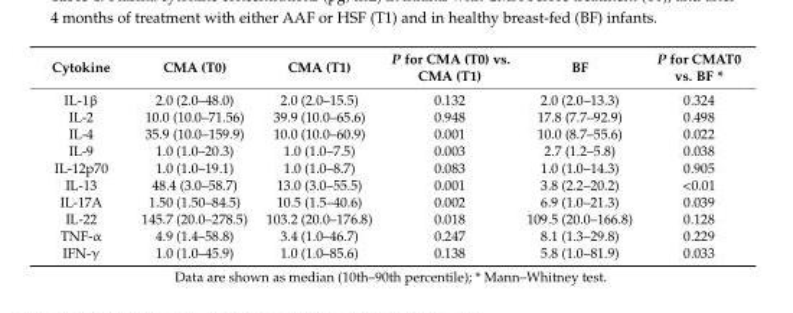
<table><thead><tr><td>Cytokine</td><td>CMA (T0)</td><td>CMA (T1)</td><td>P for CMA (T0) vs. CMA (T1)</td><td>BF</td><td>P for CMAT0 vs. BF *</td></tr></thead><tbody><tr><td>IL-1β</td><td>2.0 (2.0–48.0)</td><td>2.0 (2.0–15.5)</td><td>0.132</td><td>2.0 (2.0–13.3)</td><td>0.324</td></tr><tr><td>IL-2</td><td>10.0 (10.0–71.56)</td><td>39.9 (10.0–65.6)</td><td>0.948</td><td>17.8 (7.7–92.9)</td><td>0.498</td></tr><tr><td>IL-4</td><td>35.9 (10.0–159.9)</td><td>10.0 (10.0–60.9)</td><td>0.001</td><td>10.0 (8.7–55.6)</td><td>0.022</td></tr><tr><td>IL-9</td><td>1.0 (1.0–20.3)</td><td>1.0 (1.0–7.5)</td><td>0.003</td><td>2.7 (1.2–5.8)</td><td>0.038</td></tr><tr><td>IL-12p70</td><td>1.0 (1.0–19.1)</td><td>1.0 (1.0–8.7)</td><td>0.083</td><td>1.0 (1.0–14.3)</td><td>0.905</td></tr><tr><td>IL-13</td><td>48.4 (3.0–58.7)</td><td>13.0 (3.0–55.5)</td><td>0.001</td><td>3.8 (2.2–20.2)</td><td>&lt;0.01</td></tr><tr><td>IL-17A</td><td>1.50 (1.50–84.5)</td><td>10.5 (1.5–40.6)</td><td>0.002</td><td>6.9 (1.0–21.3)</td><td>0.039</td></tr><tr><td>IL-22</td><td>145.7 (20.0–278.5)</td><td>103.2 (20.0–176.8)</td><td>0.018</td><td>109.5 (20.0–166.8)</td><td>0.128</td></tr><tr><td>TNF-α</td><td>4.9 (1.4–58.8)</td><td>3.4 (1.0–46.7)</td><td>0.247</td><td>8.1 (1.3–29.8)</td><td>0.229</td></tr><tr><td>IFN-γ</td><td>1.0 (1.0–45.9)</td><td>1.0 (1.0–85.6)</td><td>0.138</td><td>5.8 (1.0–81.9)</td><td>0.033</td></tr></tbody></table>